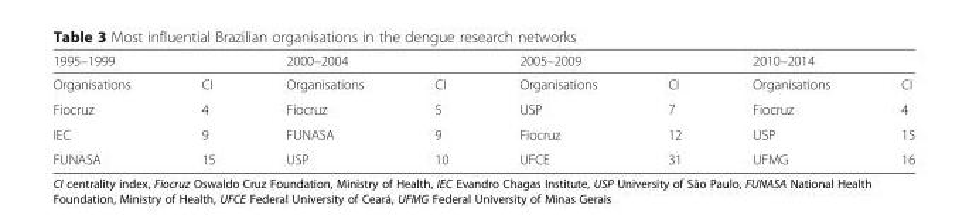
<table><thead><tr><td colspan="2">1995–1999</td><td colspan="2">2000–2004</td><td colspan="2">2005–2009</td><td colspan="2">2010–2014</td></tr><tr><td>Organisations</td><td>CI</td><td>Organisations</td><td>CI</td><td>Organisations</td><td>CI</td><td>Organisations</td><td>CI</td></tr></thead><tbody><tr><td>Fiocruz</td><td>4</td><td>Fiocruz</td><td>5</td><td>USP</td><td>7</td><td>Fiocruz</td><td>4</td></tr><tr><td>IEC</td><td>9</td><td>FUNASA</td><td>9</td><td>Fiocruz</td><td>12</td><td>USP</td><td>15</td></tr><tr><td>FUNASA</td><td>15</td><td>USP</td><td>10</td><td>UFCE</td><td>31</td><td>UFMG</td><td>16</td></tr></tbody></table>